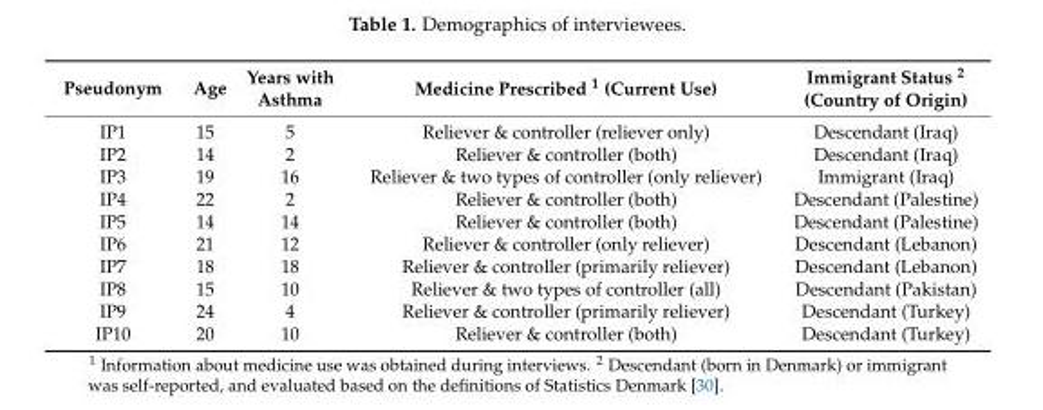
<table><thead><tr><td>Pseudonym</td><td>Age</td><td>Years with Asthma</td><td>Medicine Prescribed <sup>1</sup> (Current Use)</td><td>Immigrant Status <sup>2</sup> (Country of Origin)</td></tr></thead><tbody><tr><td>IP1</td><td>15</td><td>5</td><td>Reliever &amp; controller (reliever only)</td><td>Descendant (Iraq)</td></tr><tr><td>IP2</td><td>14</td><td>2</td><td>Reliever &amp; controller (both)</td><td>Descendant (Iraq)</td></tr><tr><td>IP3</td><td>19</td><td>16</td><td>Reliever &amp; two types of controller (only reliever)</td><td>Immigrant (Iraq)</td></tr><tr><td>IP4</td><td>22</td><td>2</td><td>Reliever &amp; controller (both)</td><td>Descendant (Palestine)</td></tr><tr><td>IP5</td><td>14</td><td>14</td><td>Reliever &amp; controller (both)</td><td>Descendant (Palestine)</td></tr><tr><td>IP6</td><td>21</td><td>12</td><td>Reliever &amp; controller (only reliever)</td><td>Descendant (Lebanon)</td></tr><tr><td>IP7</td><td>18</td><td>18</td><td>Reliever &amp; controller (primarily reliever)</td><td>Descendant (Lebanon)</td></tr><tr><td>IP8</td><td>15</td><td>10</td><td>Reliever &amp; two types of controller (all)</td><td>Descendant (Pakistan)</td></tr><tr><td>IP9</td><td>24</td><td>4</td><td>Reliever &amp; controller (primarily reliever)</td><td>Descendant (Turkey)</td></tr><tr><td>IP10</td><td>20</td><td>10</td><td>Reliever &amp; controller (both)</td><td>Descendant (Turkey)</td></tr></tbody></table>